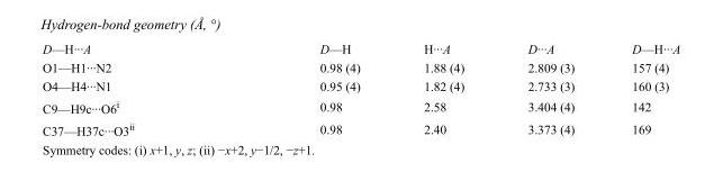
<table><tbody><tr><td>D—H···A</td><td>D—H</td><td>H···A</td><td>D···A</td><td>D—H···A</td></tr><tr><td>O1—H1···N2</td><td>0.98 (4)</td><td>1.88 (4)</td><td>2.809 (3)</td><td>157 (4)</td></tr><tr><td>O4—H4···N1</td><td>0.95 (4)</td><td>1.82 (4)</td><td>2.733 (3)</td><td>160 (3)</td></tr><tr><td>C9—H9c···O6<sup>i</sup></td><td>0.98</td><td>2.58</td><td>3.404 (4)</td><td>142</td></tr><tr><td>C37—H37c···O3<sup>ii</sup></td><td>0.98</td><td>2.40</td><td>3.373 (4)</td><td>169</td></tr></tbody></table>